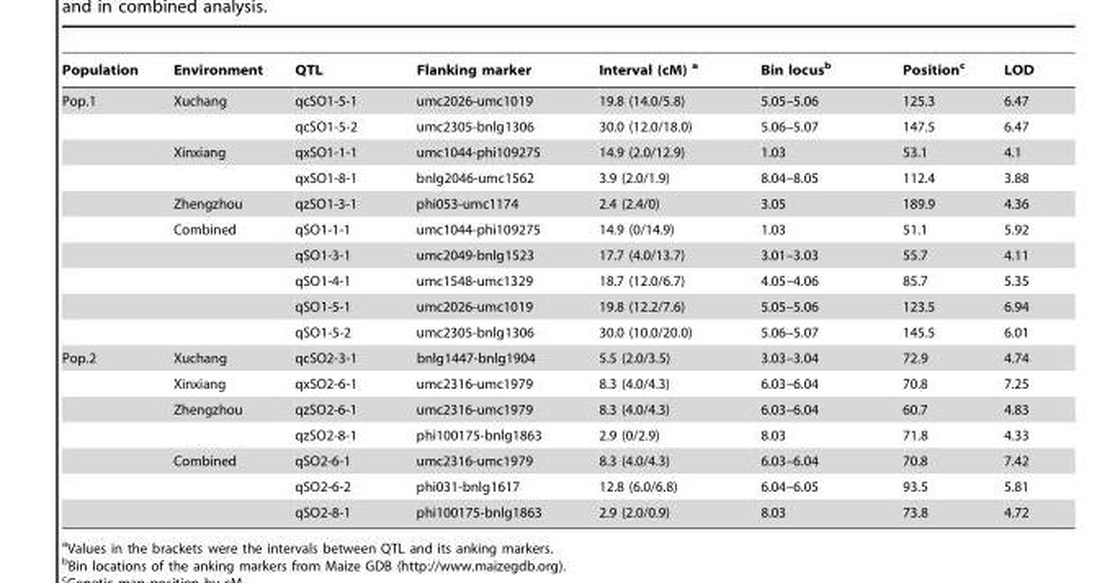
<table><thead><tr><td>Population</td><td>Environment</td><td>QTL</td><td>Flanking marker</td><td>Interval (cM) a</td><td>Bin locus<sup>b</sup></td><td>Position<sup>c</sup></td><td>LOD</td></tr></thead><tbody><tr><td rowspan="10">Pop.1</td><td>Xuchang</td><td>qcSO1-5-1</td><td>umc2026-umc1019</td><td>19.8 (14.0/5.8)</td><td>5.05–5.06</td><td>125.3</td><td>6.47</td></tr><tr><td></td><td>qcSO1-5-2</td><td>umc2305-bnlg1306</td><td>30.0 (12.0/18.0)</td><td>5.06–5.07</td><td>147.5</td><td>6.47</td></tr><tr><td>Xinxiang</td><td>qxSO1-1-1</td><td>umc1044-phi109275</td><td>14.9 (2.0/12.9)</td><td>1.03</td><td>53.1</td><td>4.1</td></tr><tr><td></td><td>qxSO1-8-1</td><td>bnlg2046-umc1562</td><td>3.9 (2.0/1.9)</td><td>8.04–8.05</td><td>112.4</td><td>3.88</td></tr><tr><td>Zhengzhou</td><td>qzSO1-3-1</td><td>phi053-umc1174</td><td>2.4 (2.4/0)</td><td>3.05</td><td>189.9</td><td>4.36</td></tr><tr><td>Combined</td><td>qSO1-1-1</td><td>umc1044-phi109275</td><td>14.9 (0/14.9)</td><td>1.03</td><td>51.1</td><td>5.92</td></tr><tr><td></td><td>qSO1-3-1</td><td>umc2049-bnlg1523</td><td>17.7 (4.0/13.7)</td><td>3.01–3.03</td><td>55.7</td><td>4.11</td></tr><tr><td></td><td>qSO1-4-1</td><td>umc1548-umc1329</td><td>18.7 (12.0/6.7)</td><td>4.05–4.06</td><td>85.7</td><td>5.35</td></tr><tr><td></td><td>qSO1-5-1</td><td>umc2026-umc1019</td><td>19.8 (12.2/7.6)</td><td>5.05–5.06</td><td>123.5</td><td>6.94</td></tr><tr><td></td><td>qSO1-5-2</td><td>umc2305-bnlg1306</td><td>30.0 (10.0/20.0)</td><td>5.06–5.07</td><td>145.5</td><td>6.01</td></tr><tr><td rowspan="7">Pop.2</td><td>Xuchang</td><td>qcSO2-3-1</td><td>bnlg1447-bnlg1904</td><td>5.5 (2.0/3.5)</td><td>3.03–3.04</td><td>72.9</td><td>4.74</td></tr><tr><td>Xinxiang</td><td>qxSO2-6-1</td><td>umc2316-umc1979</td><td>8.3 (4.0/4.3)</td><td>6.03–6.04</td><td>70.8</td><td>7.25</td></tr><tr><td>Zhengzhou</td><td>qzSO2-6-1</td><td>umc2316-umc1979</td><td>8.3 (4.0/4.3)</td><td>6.03–6.04</td><td>60.7</td><td>4.83</td></tr><tr><td></td><td>qzSO2-8-1</td><td>phi100175-bnlg1863</td><td>2.9 (0/2.9)</td><td>8.03</td><td>71.8</td><td>4.33</td></tr><tr><td>Combined</td><td>qSO2-6-1</td><td>umc2316-umc1979</td><td>8.3 (4.0/4.3)</td><td>6.03–6.04</td><td>70.8</td><td>7.42</td></tr><tr><td></td><td>qSO2-6-2</td><td>phi031-bnlg1617</td><td>12.8 (6.0/6.8)</td><td>6.04–6.05</td><td>93.5</td><td>5.81</td></tr><tr><td></td><td>qSO2-8-1</td><td>phi100175-bnlg1863</td><td>2.9 (2.0/0.9)</td><td>8.03</td><td>73.8</td><td>4.72</td></tr></tbody></table>